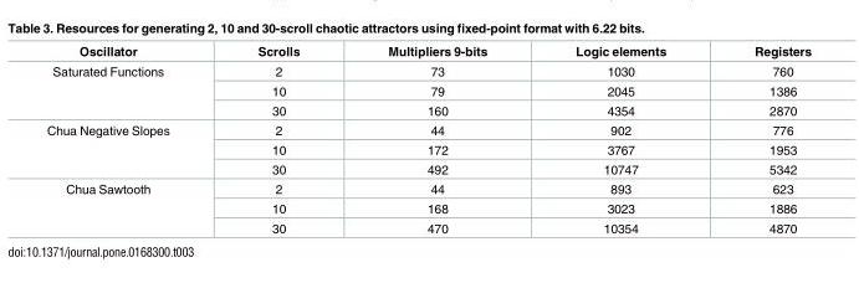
<table><thead><tr><td>Oscillator</td><td>Scrolls</td><td>Multipliers 9-bits</td><td>Logic elements</td><td>Registers</td></tr></thead><tbody><tr><td rowspan="3">Saturated Functions</td><td>2</td><td>73</td><td>1030</td><td>760</td></tr><tr><td>10</td><td>79</td><td>2045</td><td>1386</td></tr><tr><td>30</td><td>160</td><td>4354</td><td>2870</td></tr><tr><td rowspan="3">Chua Negative Slopes</td><td>2</td><td>44</td><td>902</td><td>776</td></tr><tr><td>10</td><td>172</td><td>3767</td><td>1953</td></tr><tr><td>30</td><td>492</td><td>10747</td><td>5342</td></tr><tr><td rowspan="3">Chua Sawtooth</td><td>2</td><td>44</td><td>893</td><td>623</td></tr><tr><td>10</td><td>168</td><td>3023</td><td>1886</td></tr><tr><td>30</td><td>470</td><td>10354</td><td>4870</td></tr></tbody></table>